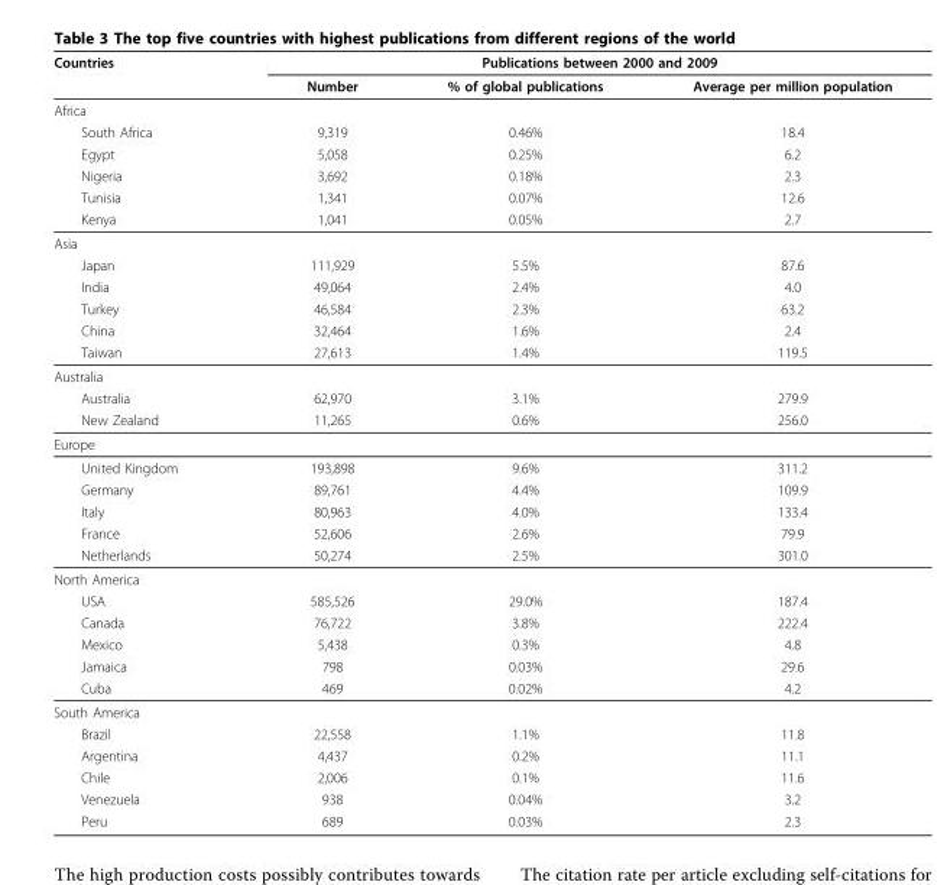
<table><thead><tr><td rowspan="2">Countries</td><td colspan="3">Publications between 2000 and 2009</td></tr><tr><td>Number</td><td>% of global publications</td><td>Average per million population</td></tr></thead><tbody><tr><td colspan="4">Africa</td></tr><tr><td>South Africa</td><td>9,319</td><td>0.46%</td><td>18.4</td></tr><tr><td>Egypt</td><td>5,058</td><td>0.25%</td><td>6.2</td></tr><tr><td>Nigeria</td><td>3,692</td><td>0.18%</td><td>2.3</td></tr><tr><td>Tunisia</td><td>1,341</td><td>0.07%</td><td>12.6</td></tr><tr><td>Kenya</td><td>1,041</td><td>0.05%</td><td>2.7</td></tr><tr><td colspan="4">Asia</td></tr><tr><td>Japan</td><td>111,929</td><td>5.5%</td><td>87.6</td></tr><tr><td>India</td><td>49,064</td><td>2.4%</td><td>4.0</td></tr><tr><td>Turkey</td><td>46,584</td><td>2.3%</td><td>63.2</td></tr><tr><td>China</td><td>32,464</td><td>1.6%</td><td>2.4</td></tr><tr><td>Taiwan</td><td>27,613</td><td>1.4%</td><td>119.5</td></tr><tr><td colspan="4">Australia</td></tr><tr><td>Australia</td><td>62,970</td><td>3.1%</td><td>279.9</td></tr><tr><td>New Zealand</td><td>11,265</td><td>0.6%</td><td>256.0</td></tr><tr><td colspan="4">Europe</td></tr><tr><td>United Kingdom</td><td>193,898</td><td>9.6%</td><td>311.2</td></tr><tr><td>Germany</td><td>89,761</td><td>4.4%</td><td>109.9</td></tr><tr><td>Italy</td><td>80,963</td><td>4.0%</td><td>133.4</td></tr><tr><td>France</td><td>52,606</td><td>2.6%</td><td>79.9</td></tr><tr><td>Netherlands</td><td>50,274</td><td>2.5%</td><td>301.0</td></tr><tr><td colspan="4">North America</td></tr><tr><td>USA</td><td>585,526</td><td>29.0%</td><td>187.4</td></tr><tr><td>Canada</td><td>76,722</td><td>3.8%</td><td>222.4</td></tr><tr><td>Mexico</td><td>5,438</td><td>0.3%</td><td>4.8</td></tr><tr><td>Jamaica</td><td>798</td><td>0.03%</td><td>29.6</td></tr><tr><td>Cuba</td><td>469</td><td>0.02%</td><td>4.2</td></tr><tr><td colspan="4">South America</td></tr><tr><td>Brazil</td><td>22,558</td><td>1.1%</td><td>11.8</td></tr><tr><td>Argentina</td><td>4,437</td><td>0.2%</td><td>11.1</td></tr><tr><td>Chile</td><td>2,006</td><td>0.1%</td><td>11.6</td></tr><tr><td>Venezuela</td><td>938</td><td>0.04%</td><td>3.2</td></tr><tr><td>Peru</td><td>689</td><td>0.03%</td><td>2.3</td></tr></tbody></table>